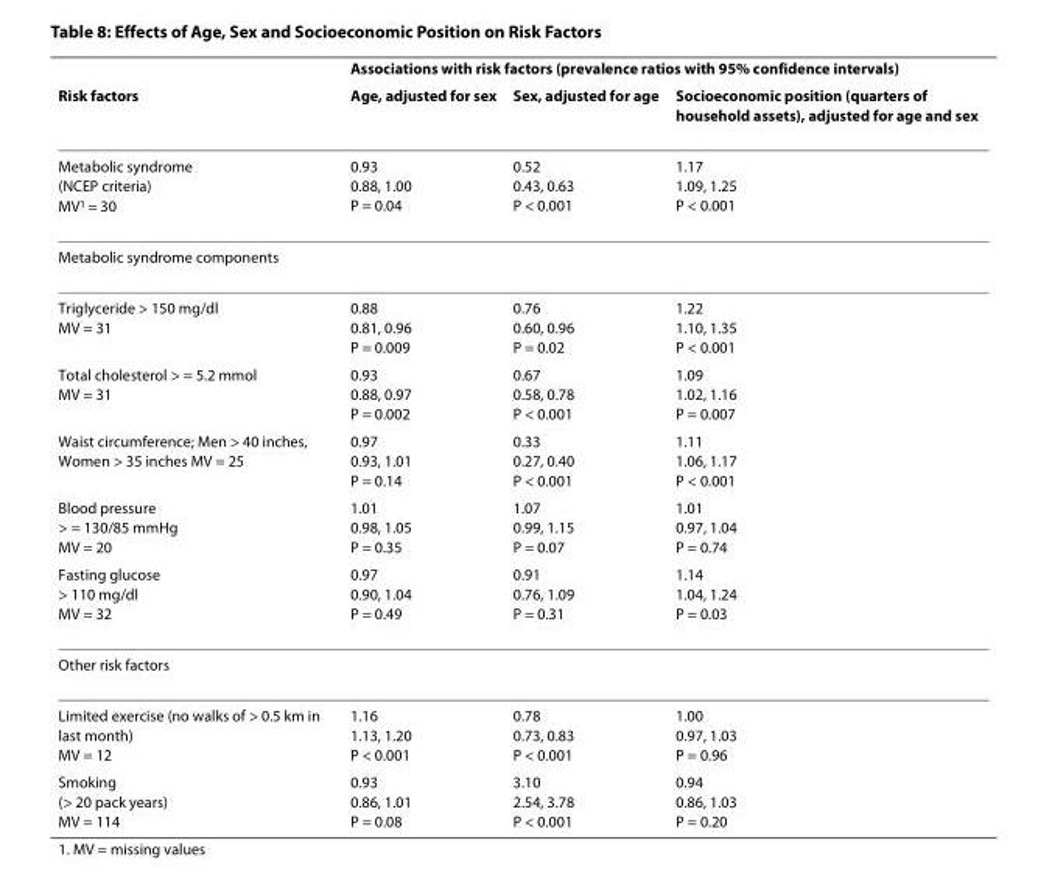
<table><thead><tr><td rowspan="2">Risk factors</td><td colspan="3">Associations with risk factors (prevalence ratios with 95% confidence intervals)</td></tr><tr><td>Age, adjusted for sex</td><td>Sex, adjusted for age</td><td>Socioeconomic position (quarters of household assets), adjusted for age and sex</td></tr></thead><tbody><tr><td>Metabolic syndrome (NCEP criteria) MV<sup>1</sup> = 30</td><td>0.93 0.88, 1.00 P = 0.04</td><td>0.52 0.43, 0.63 P &lt; 0.001</td><td>1.17 1.09, 1.25 P &lt; 0.001</td></tr><tr><td colspan="4">Metabolic syndrome components</td></tr><tr><td>Triglyceride &gt; 150 mg/dl MV = 31</td><td>0.88 0.81, 0.96 P = 0.009</td><td>0.76 0.60, 0.96 P = 0.02</td><td>1.22 1.10, 1.35 P &lt; 0.001</td></tr><tr><td>Total cholesterol &gt; = 5.2 mmol MV = 31</td><td>0.93 0.88, 0.97 P = 0.002</td><td>0.67 0.58, 0.78 P &lt; 0.001</td><td>1.09 1.02, 1.16 P = 0.007</td></tr><tr><td>Waist circumference; Men &gt; 40 inches, Women &gt; 35 inches MV = 25</td><td>0.97 0.93, 1.01 P = 0.14</td><td>0.33 0.27, 0.40 P &lt; 0.001</td><td>1.11 1.06, 1.17 P &lt; 0.001</td></tr><tr><td>Blood pressure &gt; = 130/85 mmHg MV = 20</td><td>1.01 0.98, 1.05 P = 0.35</td><td>1.07 0.99, 1.15 P = 0.07</td><td>1.01 0.97, 1.04 P = 0.74</td></tr><tr><td>Fasting glucose &gt; 110 mg/dl MV = 32</td><td>0.97 0.90, 1.04 P = 0.49</td><td>0.91 0.76, 1.09 P = 0.31</td><td>1.14 1.04, 1.24 P = 0.03</td></tr><tr><td colspan="4">Other risk factors</td></tr><tr><td>Limited exercise (no walks of &gt; 0.5 km in last month) MV = 12</td><td>1.16 1.13, 1.20 P &lt; 0.001</td><td>0.78 0.73, 0.83 P &lt; 0.001</td><td>1.00 0.97, 1.03 P = 0.96</td></tr><tr><td>Smoking (&gt; 20 pack years) MV = 114</td><td>0.93 0.86, 1.01 P = 0.08</td><td>3.10 2.54, 3.78 P &lt; 0.001</td><td>0.94 0.86, 1.03 P = 0.20</td></tr></tbody></table>